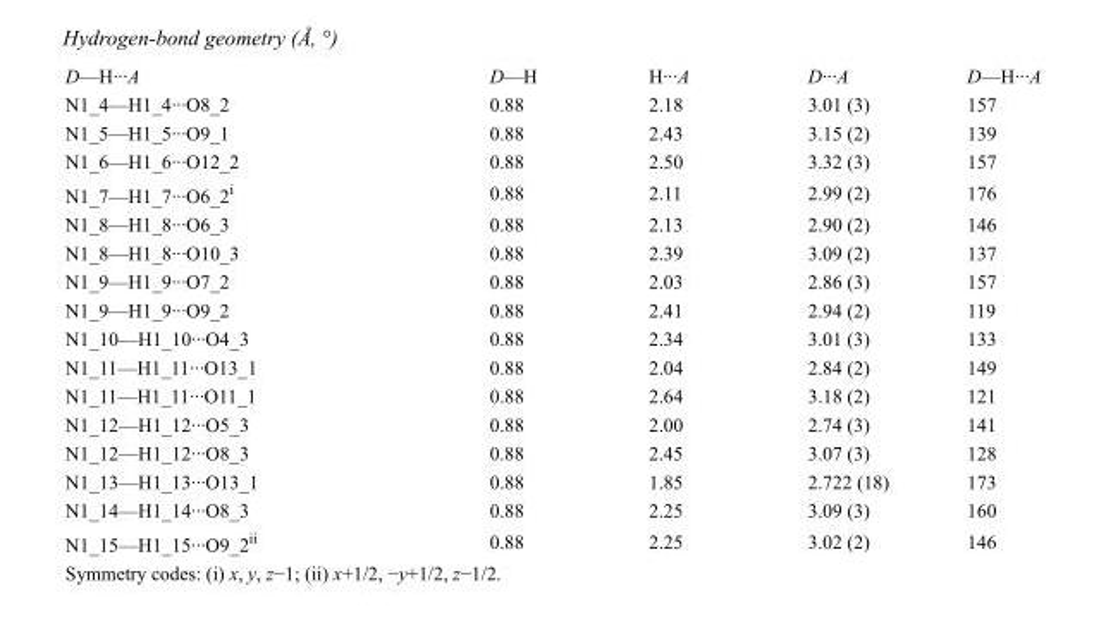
<table><tbody><tr><td>D—H···A</td><td>D—H</td><td>H···A</td><td>D···A</td><td>D—H···A</td></tr><tr><td>N1_4—H1_4···O8_2</td><td>0.88</td><td>2.18</td><td>3.01 (3)</td><td>157</td></tr><tr><td>N1_5—H1_5···O9_1</td><td>0.88</td><td>2.43</td><td>3.15 (2)</td><td>139</td></tr><tr><td>N1_6—H1_6···O12_2</td><td>0.88</td><td>2.50</td><td>3.32 (3)</td><td>157</td></tr><tr><td>N1_7—H1_7···O6_2<sup>i</sup></td><td>0.88</td><td>2.11</td><td>2.99 (2)</td><td>176</td></tr><tr><td>N1_8—H1_8···O6_3</td><td>0.88</td><td>2.13</td><td>2.90 (2)</td><td>146</td></tr><tr><td>N1_8—H1_8···O10_3</td><td>0.88</td><td>2.39</td><td>3.09 (2)</td><td>137</td></tr><tr><td>N1_9—H1_9···O7_2</td><td>0.88</td><td>2.03</td><td>2.86 (3)</td><td>157</td></tr><tr><td>N1_9—H1_9···O9_2</td><td>0.88</td><td>2.41</td><td>2.94 (2)</td><td>119</td></tr><tr><td>N1_10—H1_10···O4_3</td><td>0.88</td><td>2.34</td><td>3.01 (3)</td><td>133</td></tr><tr><td>N1_11—H1_11···O13_1</td><td>0.88</td><td>2.04</td><td>2.84 (2)</td><td>149</td></tr><tr><td>N1_11—H1_11···O11_1</td><td>0.88</td><td>2.64</td><td>3.18 (2)</td><td>121</td></tr><tr><td>N1_12—H1_12···O5_3</td><td>0.88</td><td>2.00</td><td>2.74 (3)</td><td>141</td></tr><tr><td>N1_12—H1_12···O8_3</td><td>0.88</td><td>2.45</td><td>3.07 (3)</td><td>128</td></tr><tr><td>N1_13—H1_13···O13_1</td><td>0.88</td><td>1.85</td><td>2.722 (18)</td><td>173</td></tr><tr><td>N1_14—H1_14···O8_3</td><td>0.88</td><td>2.25</td><td>3.09 (3)</td><td>160</td></tr><tr><td>N1_15—H1_15···O9_2<sup>ii</sup></td><td>0.88</td><td>2.25</td><td>3.02 (2)</td><td>146</td></tr></tbody></table>